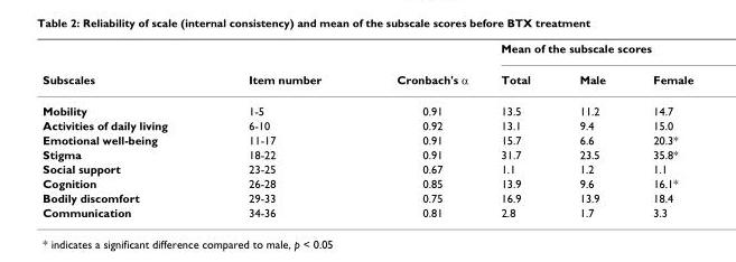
<table><thead><tr><td rowspan="2">Subscales</td><td rowspan="2">Item number</td><td rowspan="2">Cronbach&#x27;s α</td><td colspan="3">Mean of the subscale scores</td></tr><tr><td>Total</td><td>Male</td><td>Female</td></tr></thead><tbody><tr><td>Mobility</td><td>1-5</td><td>0.91</td><td>13.5</td><td>11.2</td><td>14.7</td></tr><tr><td>Activities of daily living</td><td>6-10</td><td>0.92</td><td>13.1</td><td>9.4</td><td>15.0</td></tr><tr><td>Emotional well-being</td><td>11-17</td><td>0.91</td><td>15.7</td><td>6.6</td><td>20.3*</td></tr><tr><td>Stigma</td><td>18-22</td><td>0.91</td><td>31.7</td><td>23.5</td><td>35.8*</td></tr><tr><td>Social support</td><td>23-25</td><td>0.67</td><td>1.1</td><td>1.2</td><td>1.1</td></tr><tr><td>Cognition</td><td>26-28</td><td>0.85</td><td>13.9</td><td>9.6</td><td>16.1*</td></tr><tr><td>Bodily discomfort</td><td>29-33</td><td>0.75</td><td>16.9</td><td>13.9</td><td>18.4</td></tr><tr><td>Communication</td><td>34-36</td><td>0.81</td><td>2.8</td><td>1.7</td><td>3.3</td></tr></tbody></table>